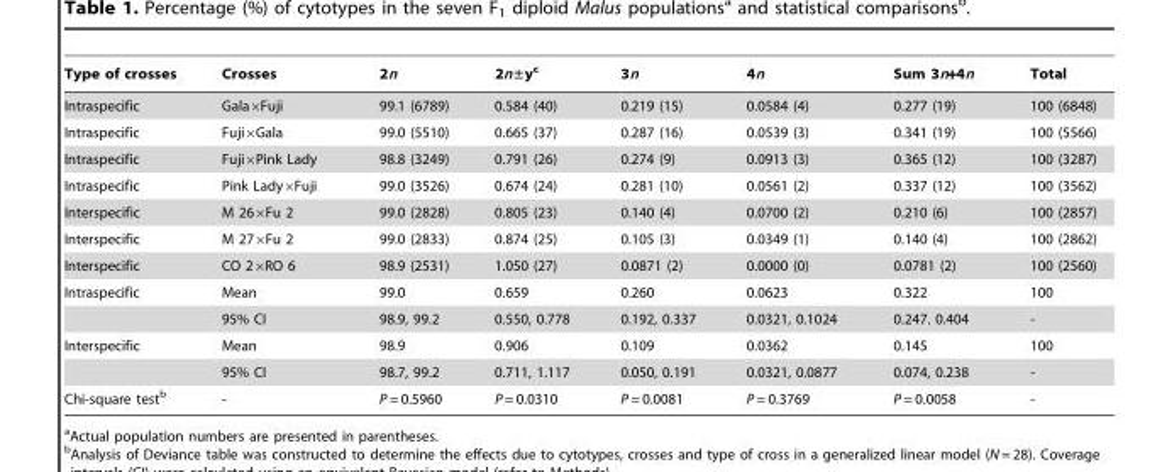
<table><thead><tr><td>Type of crosses</td><td>Crosses</td><td>2n</td><td>2n±y<sup>c</sup></td><td>3n</td><td>4n</td><td>Sum 3n+4n</td><td>Total</td></tr></thead><tbody><tr><td>Intraspecific</td><td>Gala×Fuji</td><td>99.1 (6789)</td><td>0.584 (40)</td><td>0.219 (15)</td><td>0.0584 (4)</td><td>0.277 (19)</td><td>100 (6848)</td></tr><tr><td>Intraspecific</td><td>Fuji×Gala</td><td>99.0 (5510)</td><td>0.665 (37)</td><td>0.287 (16)</td><td>0.0539 (3)</td><td>0.341 (19)</td><td>100 (5566)</td></tr><tr><td>Intraspecific</td><td>Fuji×Pink Lady</td><td>98.8 (3249)</td><td>0.791 (26)</td><td>0.274 (9)</td><td>0.0913 (3)</td><td>0.365 (12)</td><td>100 (3287)</td></tr><tr><td>Intraspecific</td><td>Pink Lady×Fuji</td><td>99.0 (3526)</td><td>0.674 (24)</td><td>0.281 (10)</td><td>0.0561 (2)</td><td>0.337 (12)</td><td>100 (3562)</td></tr><tr><td>Interspecific</td><td>M 26×Fu 2</td><td>99.0 (2828)</td><td>0.805 (23)</td><td>0.140 (4)</td><td>0.0700 (2)</td><td>0.210 (6)</td><td>100 (2857)</td></tr><tr><td>Interspecific</td><td>M 27×Fu 2</td><td>99.0 (2833)</td><td>0.874 (25)</td><td>0.105 (3)</td><td>0.0349 (1)</td><td>0.140 (4)</td><td>100 (2862)</td></tr><tr><td>Interspecific</td><td>CO 2×RO 6</td><td>98.9 (2531)</td><td>1.050 (27)</td><td>0.0871 (2)</td><td>0.0000 (0)</td><td>0.0781 (2)</td><td>100 (2560)</td></tr><tr><td rowspan="2">Intraspecific</td><td>Mean</td><td>99.0</td><td>0.659</td><td>0.260</td><td>0.0623</td><td>0.322</td><td>100</td></tr><tr><td>95% CI</td><td>98.9, 99.2</td><td>0.550, 0.778</td><td>0.192, 0.337</td><td>0.0321, 0.1024</td><td>0.247. 0.404</td><td>-</td></tr><tr><td rowspan="2">Interspecific</td><td>Mean</td><td>98.9</td><td>0.906</td><td>0.109</td><td>0.0362</td><td>0.145</td><td>100</td></tr><tr><td>95% CI</td><td>98.7, 99.2</td><td>0.711, 1.117</td><td>0.050, 0.191</td><td>0.0321, 0.0877</td><td>0.074, 0.238</td><td>-</td></tr><tr><td>Chi-square test<sup>b</sup></td><td>-</td><td>P = 0.5960</td><td>P = 0.0310</td><td>P = 0.0081</td><td>P = 0.3769</td><td>P = 0.0058</td><td>-</td></tr></tbody></table>